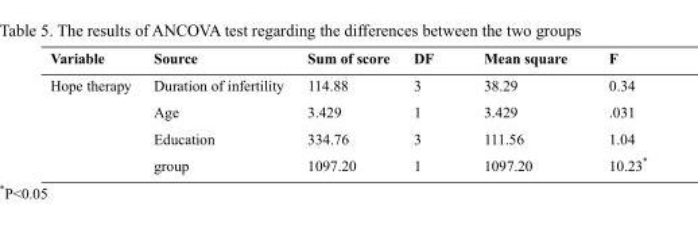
<table><thead><tr><td>Variable</td><td>Source</td><td>Sum of score</td><td>DF</td><td>Mean square</td><td>F</td></tr></thead><tbody><tr><td rowspan="4">Hope therapy</td><td>Duration of infertility</td><td>114.88</td><td>3</td><td>38.29</td><td>0.34</td></tr><tr><td>Age</td><td>3.429</td><td>1</td><td>3.429</td><td>.031</td></tr><tr><td>Education</td><td>334.76</td><td>3</td><td>111.56</td><td>1.04</td></tr><tr><td>group</td><td>1097.20</td><td>1</td><td>1097.20</td><td>10.23*</td></tr></tbody></table>